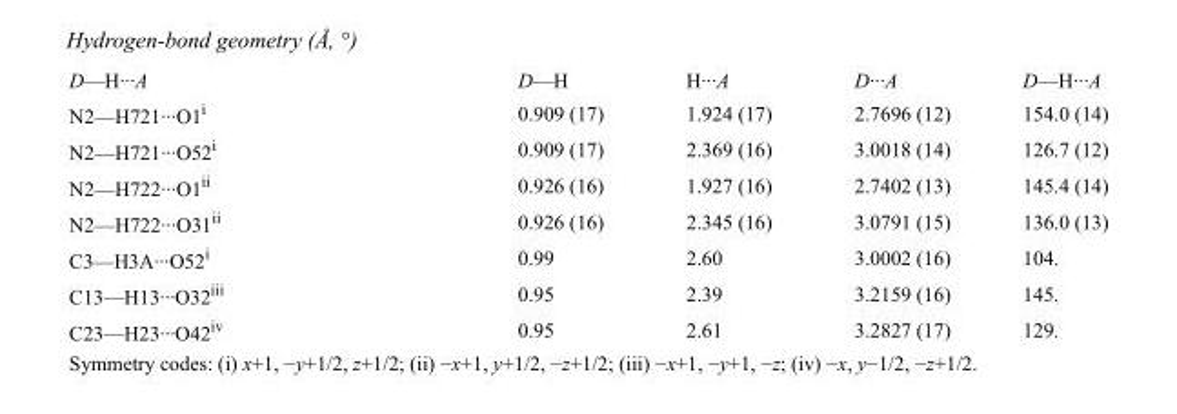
<table><tbody><tr><td>D—H···A</td><td>D—H</td><td>H···A</td><td>D···A</td><td>D—H···A</td></tr><tr><td>N2—H721···O1<sup>i</sup></td><td>0.909 (17)</td><td>1.924 (17)</td><td>2.7696 (12)</td><td>154.0 (14)</td></tr><tr><td>N2—H721···O52<sup>i</sup></td><td>0.909 (17)</td><td>2.369 (16)</td><td>3.0018 (14)</td><td>126.7 (12)</td></tr><tr><td>N2—H722···O1<sup>ii</sup></td><td>0.926 (16)</td><td>1.927 (16)</td><td>2.7402 (13)</td><td>145.4 (14)</td></tr><tr><td>N2—H722···O31<sup>ii</sup></td><td>0.926 (16)</td><td>2.345 (16)</td><td>3.0791 (15)</td><td>136.0 (13)</td></tr><tr><td>C3—H3A···O52<sup>i</sup></td><td>0.99</td><td>2.60</td><td>3.0002 (16)</td><td>104.</td></tr><tr><td>C13—H13···O32<sup>iii</sup></td><td>0.95</td><td>2.39</td><td>3.2159 (16)</td><td>145.</td></tr><tr><td>C23—H23···O42<sup>iv</sup></td><td>0.95</td><td>2.61</td><td>3.2827 (17)</td><td>129.</td></tr></tbody></table>